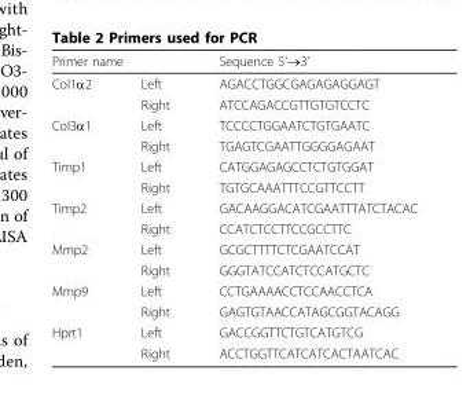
<table><thead><tr><td colspan="2">Primer name</td><td rowspan="2">Sequence 5’→3’ AGACCTGGCGAGAGAGGAGT</td></tr><tr><td>Col1α2</td><td>Left</td></tr></thead><tbody><tr><td></td><td>Right</td><td>ATCCAGACCGTTGTGTCCTC</td></tr><tr><td rowspan="2">Col3α1</td><td>Left</td><td>TCCCCTGGAATCTGTGAATC</td></tr><tr><td>Right</td><td>TGAGTCGAATTGGGGAGAAT</td></tr><tr><td rowspan="2">Timp1</td><td>Left</td><td>CATGGAGAGCCTCTGTGGAT</td></tr><tr><td>Right</td><td>TGTGCAAATTTCCGTTCCTT</td></tr><tr><td rowspan="2">Timp2</td><td>Left</td><td>GACAAGGACATCGAATTTATCTACAC</td></tr><tr><td>Right</td><td>CCATCTCCTTCCGCCTTC</td></tr><tr><td rowspan="2">Mmp2</td><td>Left</td><td>GCGCTTTTCTCGAATCCAT</td></tr><tr><td>Right</td><td>GGGTATCCATCTCCATGCTC</td></tr><tr><td rowspan="2">Mmp9</td><td>Left</td><td>CCTGAAAACCTCCAACCTCA</td></tr><tr><td>Right</td><td>GAGTGTAACCATAGCGGTACAGG</td></tr><tr><td rowspan="2">Hprt1</td><td>Left</td><td>GACCGGTTCTGTCATGTCG</td></tr><tr><td>Right</td><td>ACCTGGTTCATCATCACTAATCAC</td></tr></tbody></table>